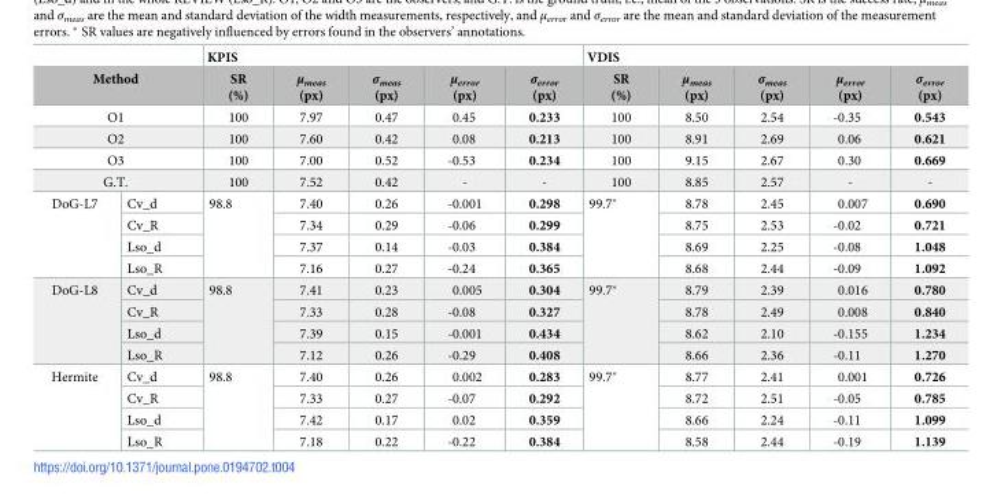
<table><thead><tr><td></td><td></td><td colspan="5">KPIS</td><td colspan="5">VDIS</td></tr><tr><td colspan="2">Method</td><td>SR (%)</td><td>μ<sub>meas</sub> (px)</td><td>σ<sub>meas</sub> (px)</td><td>μ<sub>error</sub> (px)</td><td>σ<sub>error</sub> (px)</td><td>SR (%)</td><td>μ<sub>meas</sub> (px)</td><td>σ<sub>meas</sub> (px)</td><td>μ<sub>error</sub> (px)</td><td>σ<sub>error</sub> (px)</td></tr></thead><tbody><tr><td colspan="2">O1</td><td>100</td><td>7.97</td><td>0.47</td><td>0.45</td><td>0.233</td><td>100</td><td>8.50</td><td>2.54</td><td>-0.35</td><td>0.543</td></tr><tr><td colspan="2">O2</td><td>100</td><td>7.60</td><td>0.42</td><td>0.08</td><td>0.213</td><td>100</td><td>8.91</td><td>2.69</td><td>0.06</td><td>0.621</td></tr><tr><td colspan="2">O3</td><td>100</td><td>7.00</td><td>0.52</td><td>-0.53</td><td>0.234</td><td>100</td><td>9.15</td><td>2.67</td><td>0.30</td><td>0.669</td></tr><tr><td colspan="2">G.T.</td><td>100</td><td>7.52</td><td>0.42</td><td>-</td><td>-</td><td>100</td><td>8.85</td><td>2.57</td><td>-</td><td>-</td></tr><tr><td rowspan="4">DoG-L7</td><td>Cv_d</td><td rowspan="4">98.8</td><td>7.40</td><td>0.26</td><td>-0.001</td><td>0.298</td><td rowspan="4">99.7*</td><td>8.78</td><td>2.45</td><td>0.007</td><td>0.690</td></tr><tr><td>Cv_R</td><td>7.34</td><td>0.29</td><td>-0.06</td><td>0.299</td><td>8.75</td><td>2.53</td><td>-0.02</td><td>0.721</td></tr><tr><td>Lso_d</td><td>7.37</td><td>0.14</td><td>-0.03</td><td>0.384</td><td>8.69</td><td>2.25</td><td>-0.08</td><td>1.048</td></tr><tr><td>Lso_R</td><td>7.16</td><td>0.27</td><td>-0.24</td><td>0.365</td><td>8.68</td><td>2.44</td><td>-0.09</td><td>1.092</td></tr><tr><td rowspan="4">DoG-L8</td><td>Cv_d</td><td rowspan="4">98.8</td><td>7.41</td><td>0.23</td><td>0.005</td><td>0.304</td><td rowspan="4">99.7*</td><td>8.79</td><td>2.39</td><td>0.016</td><td>0.780</td></tr><tr><td>Cv_R</td><td>7.33</td><td>0.28</td><td>-0.08</td><td>0.327</td><td>8.78</td><td>2.49</td><td>0.008</td><td>0.840</td></tr><tr><td>Lso_d</td><td>7.39</td><td>0.15</td><td>-0.001</td><td>0.434</td><td>8.62</td><td>2.10</td><td>-0.155</td><td>1.234</td></tr><tr><td>Lso_R</td><td>7.12</td><td>0.26</td><td>-0.29</td><td>0.408</td><td>8.66</td><td>2.36</td><td>-0.11</td><td>1.270</td></tr><tr><td rowspan="4">Hermite</td><td>Cv_d</td><td rowspan="4">98.8</td><td>7.40</td><td>0.26</td><td>0.002</td><td>0.283</td><td rowspan="4">99.7*</td><td>8.77</td><td>2.41</td><td>0.001</td><td>0.726</td></tr><tr><td>Cv_R</td><td>7.33</td><td>0.27</td><td>-0.07</td><td>0.292</td><td>8.72</td><td>2.51</td><td>-0.05</td><td>0.785</td></tr><tr><td>Lso_d</td><td>7.42</td><td>0.17</td><td>0.02</td><td>0.359</td><td>8.66</td><td>2.24</td><td>-0.11</td><td>1.099</td></tr><tr><td>Lso_R</td><td>7.18</td><td>0.22</td><td>-0.22</td><td>0.384</td><td>8.58</td><td>2.44</td><td>-0.19</td><td>1.139</td></tr></tbody></table>